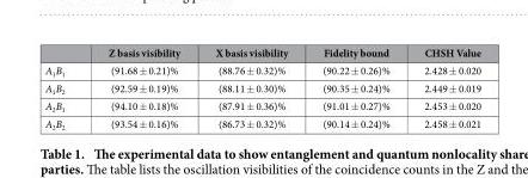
<table><thead><tr><td></td><td>Z basis visibility</td><td>X basis visibility</td><td>Fidelity bound</td><td>CHSH Value</td></tr></thead><tbody><tr><td>A<sub>1</sub>B<sub>1</sub></td><td>(91.68 ± 0.21)%</td><td>(88.76 ± 0.32)%</td><td>(90.22 ± 0.26)%</td><td>2.428 ± 0.020</td></tr><tr><td>A<sub>1</sub>B<sub>2</sub></td><td>(92.59 ± 0.19)%</td><td>(88.11 ± 0.30)%</td><td>(90.35 ± 0.24)%</td><td>2.449 ± 0.019</td></tr><tr><td>A<sub>2</sub>B<sub>1</sub></td><td>(94.10 ± 0.18)%</td><td>(87.91 ± 0.36)%</td><td>(91.01 ± 0.27)%</td><td>2.453 ± 0.020</td></tr><tr><td>A<sub>2</sub>B<sub>2</sub></td><td>(93.54 ± 0.16)%</td><td>(86.73 ± 0.32)%</td><td>(90.14 ± 0.24)%</td><td>2.458 ± 0.021</td></tr></tbody></table>